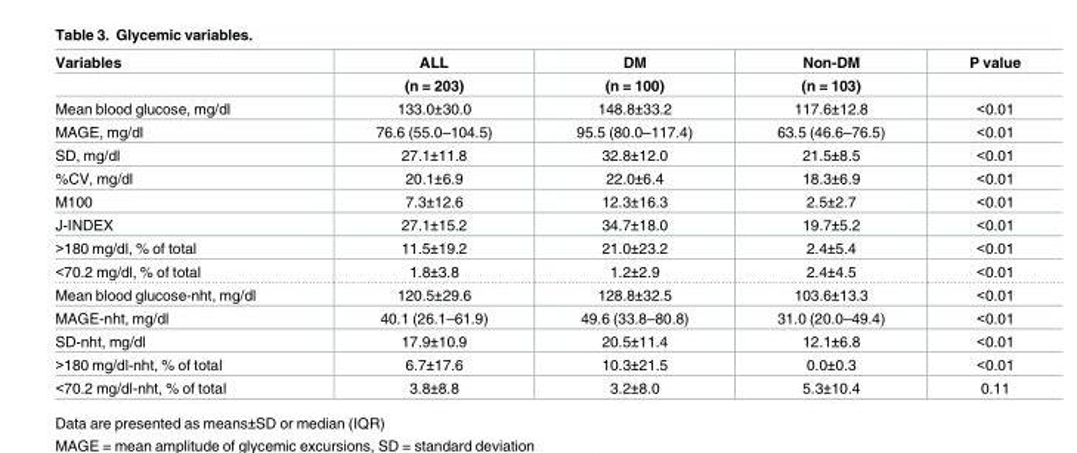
<table><thead><tr><td rowspan="2">Variables</td><td rowspan="2">ALL (n = 203)</td><td rowspan="2">DM (n = 100)</td><td rowspan="2">Non-DM (n = 103)</td><td rowspan="2">P value</td></tr><tr></tr></thead><tbody><tr><td>Mean blood glucose, mg/dl</td><td>133.0±30.0</td><td>148.8±33.2</td><td>117.6±12.8</td><td>&lt;0.01</td></tr><tr><td>MAGE, mg/dl</td><td>76.6 (55.0–104.5)</td><td>95.5 (80.0–117.4)</td><td>63.5 (46.6–76.5)</td><td>&lt;0.01</td></tr><tr><td>SD, mg/dl</td><td>27.1±11.8</td><td>32.8±12.0</td><td>21.5±8.5</td><td>&lt;0.01</td></tr><tr><td>%CV, mg/dl</td><td>20.1±6.9</td><td>22.0±6.4</td><td>18.3±6.9</td><td>&lt;0.01</td></tr><tr><td>M100</td><td>7.3±12.6</td><td>12.3±16.3</td><td>2.5±2.7</td><td>&lt;0.01</td></tr><tr><td>J-INDEX</td><td>27.1±15.2</td><td>34.7±18.0</td><td>19.7±5.2</td><td>&lt;0.01</td></tr><tr><td>&gt;180 mg/dl, % of total</td><td>11.5±19.2</td><td>21.0±23.2</td><td>2.4±5.4</td><td>&lt;0.01</td></tr><tr><td>&lt;70.2 mg/dl, % of total</td><td>1.8±3.8</td><td>1.2±2.9</td><td>2.4±4.5</td><td>&lt;0.01</td></tr><tr><td>Mean blood glucose-nht, mg/dl</td><td>120.5±29.6</td><td>128.8±32.5</td><td>103.6±13.3</td><td>&lt;0.01</td></tr><tr><td>MAGE-nht, mg/dl</td><td>40.1 (26.1–61.9)</td><td>49.6 (33.8–80.8)</td><td>31.0 (20.0–49.4)</td><td>&lt;0.01</td></tr><tr><td>SD-nht, mg/dl</td><td>17.9±10.9</td><td>20.5±11.4</td><td>12.1±6.8</td><td>&lt;0.01</td></tr><tr><td>&gt;180 mg/dl-nht, % of total</td><td>6.7±17.6</td><td>10.3±21.5</td><td>0.0±0.3</td><td>&lt;0.01</td></tr><tr><td>&lt;70.2 mg/dl-nht, % of total</td><td>3.8±8.8</td><td>3.2±8.0</td><td>5.3±10.4</td><td>0.11</td></tr></tbody></table>